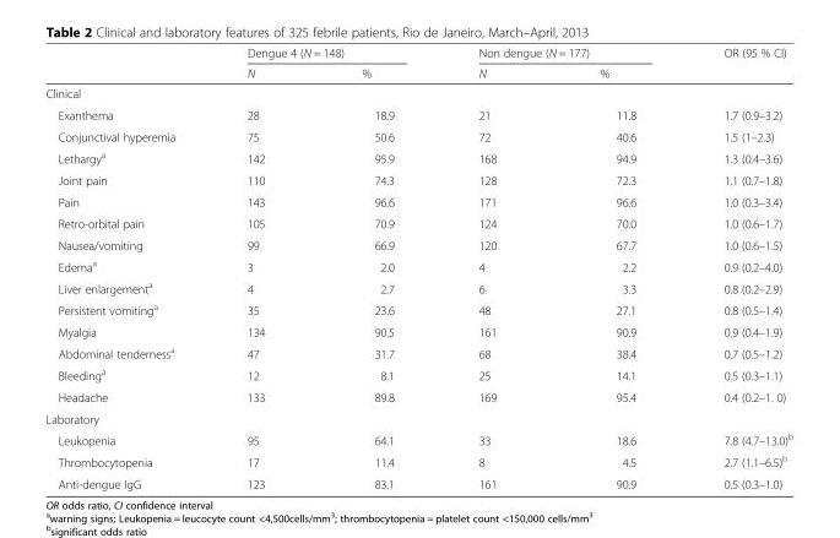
<table><thead><tr><td rowspan="2"></td><td colspan="2">Dengue 4 (N = 148)</td><td colspan="2">Non dengue (N = 177)</td><td rowspan="2">OR (95 % CI)</td></tr><tr><td>N</td><td>%</td><td>N</td><td>%</td></tr></thead><tbody><tr><td colspan="6">Clinical</td></tr><tr><td>Exanthema</td><td>28</td><td>18.9</td><td>21</td><td>11.8</td><td>1.7 (0.9–3.2)</td></tr><tr><td>Conjunctival hyperemia</td><td>75</td><td>50.6</td><td>72</td><td>40.6</td><td>1.5 (1–2.3)</td></tr><tr><td>Lethargy<sup>a</sup></td><td>142</td><td>95.9</td><td>168</td><td>94.9</td><td>1.3 (0.4–3.6)</td></tr><tr><td>Joint pain</td><td>110</td><td>74.3</td><td>128</td><td>72.3</td><td>1.1 (0.7–1.8)</td></tr><tr><td>Pain</td><td>143</td><td>96.6</td><td>171</td><td>96.6</td><td>1.0 (0.3–3.4)</td></tr><tr><td>Retro-orbital pain</td><td>105</td><td>70.9</td><td>124</td><td>70.0</td><td>1.0 (0.6–1.7)</td></tr><tr><td>Nausea/vomiting</td><td>99</td><td>66.9</td><td>120</td><td>67.7</td><td>1.0 (0.6–1.5)</td></tr><tr><td>Edema<sup>a</sup></td><td>3</td><td>2.0</td><td>4</td><td>2.2</td><td>0.9 (0.2–4.0)</td></tr><tr><td>Liver enlargement<sup>a</sup></td><td>4</td><td>2.7</td><td>6</td><td>3.3</td><td>0.8 (0.2–2.9)</td></tr><tr><td>Persistent vomiting<sup>a</sup></td><td>35</td><td>23.6</td><td>48</td><td>27.1</td><td>0.8 (0.5–1.4)</td></tr><tr><td>Myalgia</td><td>134</td><td>90.5</td><td>161</td><td>90.9</td><td>0.9 (0.4–1.9)</td></tr><tr><td>Abdominal tenderness<sup>a</sup></td><td>47</td><td>31.7</td><td>68</td><td>38.4</td><td>0.7 (0.5–1.2)</td></tr><tr><td>Bleeding<sup>a</sup></td><td>12</td><td>8.1</td><td>25</td><td>14.1</td><td>0.5 (0.3–1.1)</td></tr><tr><td>Headache</td><td>133</td><td>89.8</td><td>169</td><td>95.4</td><td>0.4 (0.2–1. 0)</td></tr><tr><td colspan="6">Laboratory</td></tr><tr><td>Leukopenia</td><td>95</td><td>64.1</td><td>33</td><td>18.6</td><td>7.8 (4.7–13.0)<sup>b</sup></td></tr><tr><td>Thrombocytopenia</td><td>17</td><td>11.4</td><td>8</td><td>4.5</td><td>2.7 (1.1–6.5)<sup>b</sup></td></tr><tr><td>Anti-dengue IgG</td><td>123</td><td>83.1</td><td>161</td><td>90.9</td><td>0.5 (0.3–1.0)</td></tr></tbody></table>